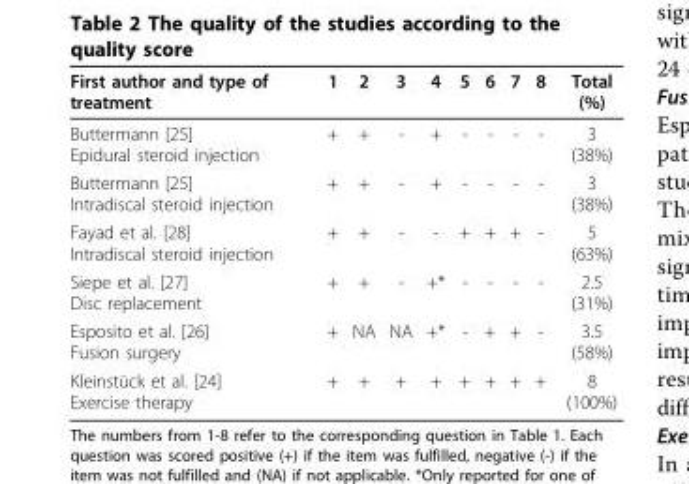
<table><thead><tr><td>First author and type of treatment</td><td>1</td><td>2</td><td>3</td><td>4</td><td>5</td><td>6</td><td>7</td><td>8</td><td>Total (%)</td></tr></thead><tbody><tr><td>Buttermann [25] Epidural steroid injection</td><td>+</td><td>+</td><td>-</td><td>+</td><td>-</td><td>-</td><td>-</td><td>-</td><td>3 (38%)</td></tr><tr><td>Buttermann [25] Intradiscal steroid injection</td><td>+</td><td>+</td><td>-</td><td>+</td><td>-</td><td>-</td><td>-</td><td>-</td><td>3 (38%)</td></tr><tr><td>Fayad et al. [28] Intradiscal steroid injection</td><td>+</td><td>+</td><td>-</td><td>-</td><td>+</td><td>+</td><td>+</td><td>-</td><td>5 (63%)</td></tr><tr><td>Siepe et al. [27] Disc replacement</td><td>+</td><td>+</td><td>-</td><td>+*</td><td>-</td><td>-</td><td>-</td><td>-</td><td>2.5 (31%)</td></tr><tr><td>Esposito et al. [26] Fusion surgery</td><td>+</td><td>NA</td><td>NA</td><td>+*</td><td>-</td><td>+</td><td>+</td><td>-</td><td>3.5 (58%)</td></tr><tr><td>Kleinstück et al. [24] Exercise therapy</td><td>+</td><td>+</td><td>+</td><td>+</td><td>+</td><td>+</td><td>+</td><td>+</td><td>8 (100%)</td></tr></tbody></table>